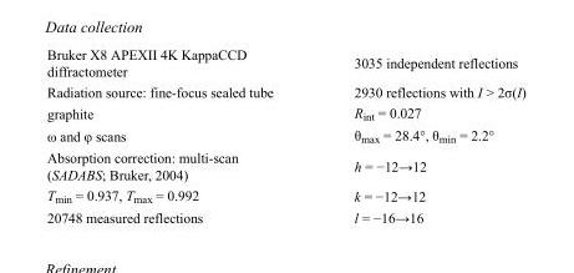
<table><tbody><tr><td>Bruker X8 APEXII 4K KappaCCD diffractometer</td><td>3035 independent reflections</td></tr><tr><td>Radiation source: fine-focus sealed tube</td><td>2930 reflections with I &gt; 2σ(I)</td></tr><tr><td>graphite</td><td>R<sub>int</sub> = 0.027</td></tr><tr><td>ω and φ scans</td><td>θ<sub>max</sub> = 28.4°, θ<sub>min</sub> = 2.2°</td></tr><tr><td>Absorption correction: multi-scan (SADABS; Bruker, 2004)</td><td>h = −12→12</td></tr><tr><td>T<sub>min</sub> = 0.937, T<sub>max</sub> = 0.992</td><td>k = −12→12</td></tr><tr><td>20748 measured reflections</td><td>l = −16→16</td></tr></tbody></table>